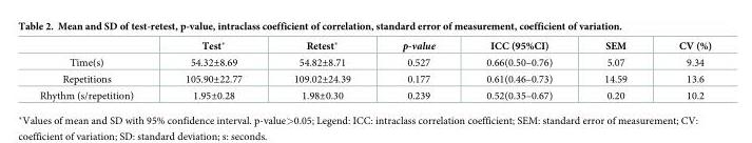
<table><thead><tr><td></td><td>Test*</td><td>Retest*</td><td>p-value</td><td>ICC (95%CI)</td><td>SEM</td><td>CV (%)</td></tr></thead><tbody><tr><td>Time(s)</td><td>54.32±8.69</td><td>54.82±8.71</td><td>0.527</td><td>0.66(0.50–0.76)</td><td>5.07</td><td>9.34</td></tr><tr><td>Repetitions</td><td>105.90±22.77</td><td>109.02±24.39</td><td>0.177</td><td>0.61(0.46–0.73)</td><td>14.59</td><td>13.6</td></tr><tr><td>Rhythm (s/repetition)</td><td>1.95±0.28</td><td>1.98±0.30</td><td>0.239</td><td>0.52(0.35–0.67)</td><td>0.20</td><td>10.2</td></tr></tbody></table>